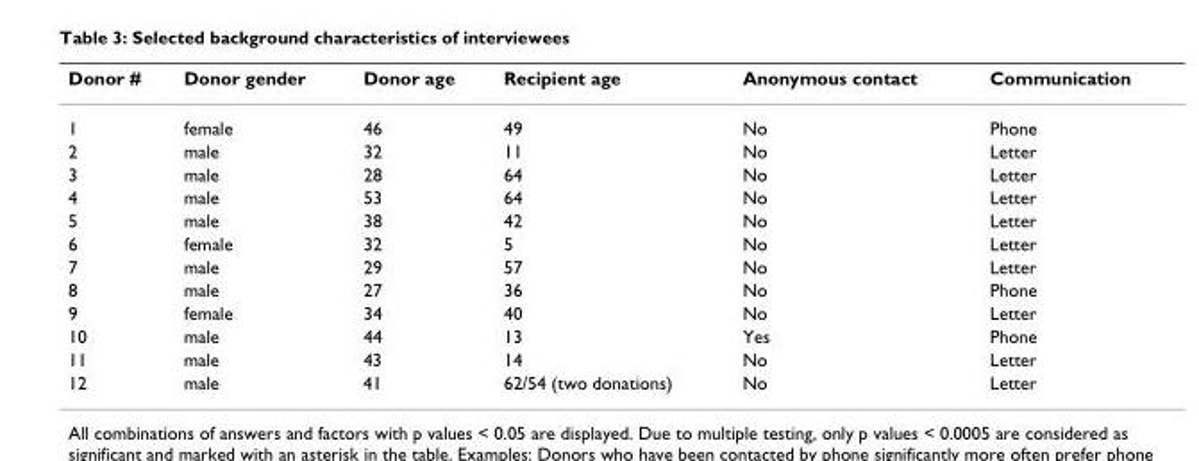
<table><thead><tr><td>Donor #</td><td>Donor gender</td><td>Donor age</td><td>Recipient age</td><td>Anonymous contact</td><td>Communication</td></tr></thead><tbody><tr><td>1</td><td>female</td><td>46</td><td>49</td><td>No</td><td>Phone</td></tr><tr><td>2</td><td>male</td><td>32</td><td>11</td><td>No</td><td>Letter</td></tr><tr><td>3</td><td>male</td><td>28</td><td>64</td><td>No</td><td>Letter</td></tr><tr><td>4</td><td>male</td><td>53</td><td>64</td><td>No</td><td>Letter</td></tr><tr><td>5</td><td>male</td><td>38</td><td>42</td><td>No</td><td>Letter</td></tr><tr><td>6</td><td>female</td><td>32</td><td>5</td><td>No</td><td>Letter</td></tr><tr><td>7</td><td>male</td><td>29</td><td>57</td><td>No</td><td>Letter</td></tr><tr><td>8</td><td>male</td><td>27</td><td>36</td><td>No</td><td>Phone</td></tr><tr><td>9</td><td>female</td><td>34</td><td>40</td><td>No</td><td>Letter</td></tr><tr><td>10</td><td>male</td><td>44</td><td>13</td><td>Yes</td><td>Phone</td></tr><tr><td>11</td><td>male</td><td>43</td><td>14</td><td>No</td><td>Letter</td></tr><tr><td>12</td><td>male</td><td>41</td><td>62/54 (two donations)</td><td>No</td><td>Letter</td></tr></tbody></table>